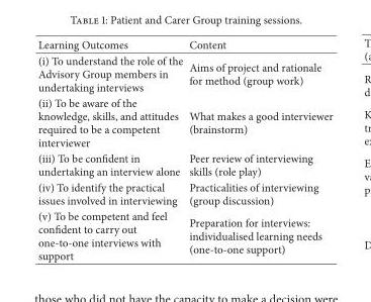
<table><thead><tr><td>Learning Outcomes</td><td>Content</td></tr></thead><tbody><tr><td>(i) To understand the role of the Advisory Group members in undertaking interviews</td><td>Aims of project and rationale for method (group work)</td></tr><tr><td>(ii) To be aware of the knowledge, skills, and attitudes required to be a competent interviewer</td><td>What makes a good interviewer (brainstorm)</td></tr><tr><td>(iii) To be confident in undertaking an interview alone</td><td>Peer review of interviewing skills (role play)</td></tr><tr><td>(iv) To identify the practical issues involved in interviewing</td><td>Practicalities of interviewing (group discussion)</td></tr><tr><td>(v) To be competent and feel confident to carry out one-to-one interviews with support</td><td>Preparation for interviews: individualised learning needs (one-to-one support)</td></tr></tbody></table>